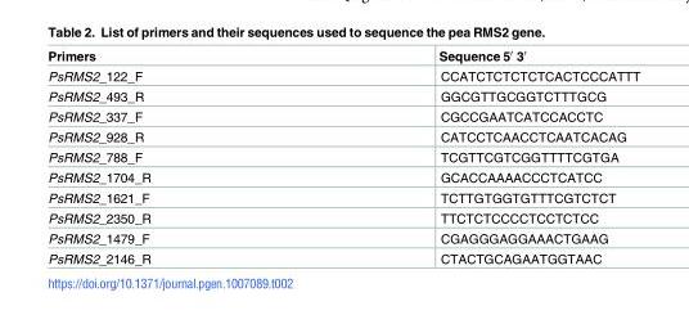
<table><thead><tr><td>Primers</td><td>Sequence 5′ 3′</td></tr></thead><tbody><tr><td>PsRMS2_122_F</td><td>CCATCTCTCTCTCACTCCCATTT</td></tr><tr><td>PsRMS2_493_R</td><td>GGCGTTGCGGTCTTTGCG</td></tr><tr><td>PsRMS2_337_F</td><td>CGCCGAATCATCCACCTC</td></tr><tr><td>PsRMS2_928_R</td><td>CATCCTCAACCTCAATCACAG</td></tr><tr><td>PsRMS2_788_F</td><td>TCGTTCGTCGGTTTTCGTGA</td></tr><tr><td>PsRMS2_1704_R</td><td>GCACCAAAACCCTCATCC</td></tr><tr><td>PsRMS2_1621_F</td><td>TCTTGTGGTGTTTCGTCTCT</td></tr><tr><td>PsRMS2_2350_R</td><td>TTCTCTCCCCTCCTCTCC</td></tr><tr><td>PsRMS2_1479_F</td><td>CGAGGGAGGAAACTGAAG</td></tr><tr><td>PsRMS2_2146_R</td><td>CTACTGCAGAATGGTAAC</td></tr></tbody></table>